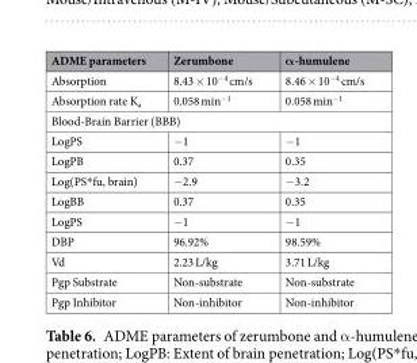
<table><thead><tr><td>ADME parameters</td><td>Zerumbone</td><td>α-humulene</td></tr></thead><tbody><tr><td>Absorption</td><td>8.43 × 10<sup>−4</sup> cm/s</td><td>8.46 × 10<sup>−4</sup> cm/s</td></tr><tr><td>Absorption rate K<sub>a</sub></td><td>0.058 min<sup>−1</sup></td><td>0.058 min<sup>−1</sup></td></tr><tr><td colspan="3">Blood-Brain Barrier (BBB)</td></tr><tr><td>LogPS</td><td>−1</td><td>−1</td></tr><tr><td>LogPB</td><td>0.37</td><td>0.35</td></tr><tr><td>Log(PS*fu, brain)</td><td>−2.9</td><td>−3.2</td></tr><tr><td>LogBB</td><td>0.37</td><td>0.35</td></tr><tr><td>LogPS</td><td>−1</td><td>−1</td></tr><tr><td>DBP</td><td>96.92%</td><td>98.59%</td></tr><tr><td>Vd</td><td>2.23 L/kg</td><td>3.71 L/kg</td></tr><tr><td>Pgp Substrate</td><td>Non-substrate</td><td>Non-substrate</td></tr><tr><td>Pgp Inhibitor</td><td>Non-inhibitor</td><td>Non-inhibitor</td></tr></tbody></table>